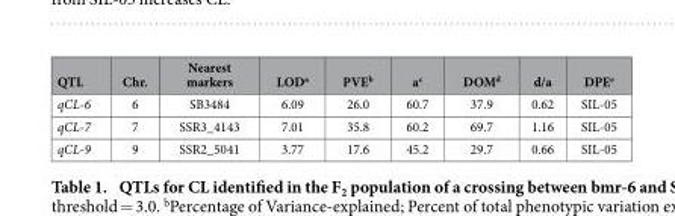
<table><thead><tr><td>QTL</td><td>Chr.</td><td>Nearest markers</td><td>LOD<sup>a</sup></td><td>PVE<sup>b</sup></td><td>a<sup>c</sup></td><td>DOM<sup>d</sup></td><td>d/a</td><td>DPE<sup>e</sup></td></tr></thead><tbody><tr><td>qCL-6</td><td>6</td><td>SB3484</td><td>6.09</td><td>26.0</td><td>60.7</td><td>37.9</td><td>0.62</td><td>SIL-05</td></tr><tr><td>qCL-7</td><td>7</td><td>SSR3_4143</td><td>7.01</td><td>35.8</td><td>60.2</td><td>69.7</td><td>1.16</td><td>SIL-05</td></tr><tr><td>qCL-9</td><td>9</td><td>SSR2_5041</td><td>3.77</td><td>17.6</td><td>45.2</td><td>29.7</td><td>0.66</td><td>SIL-05</td></tr></tbody></table>